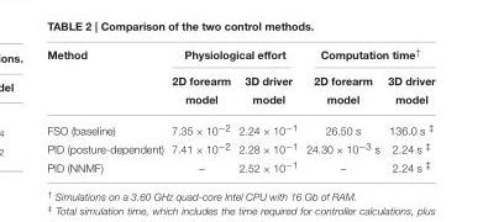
<table><thead><tr><td rowspan="2">Method</td><td colspan="2">Physiological effort</td><td colspan="2">Computation time<sup>†</sup></td></tr><tr><td>2D forearm model</td><td>3D driver model</td><td>2D forearm model</td><td>3D driver model</td></tr></thead><tbody><tr><td>FSO (baseline)</td><td>7.35 × 10<sup>−2</sup></td><td>2.24 × 10<sup>−1</sup></td><td>26.50 s</td><td>136.0 s <sup>‡</sup></td></tr><tr><td>PID (posture-dependent)</td><td>7.41 × 10<sup>−2</sup></td><td>2.28 × 10<sup>−1</sup></td><td>24.30 × 10<sup>−3</sup> s</td><td>2.24 s <sup>‡</sup></td></tr><tr><td>PID (NNMF)</td><td>–</td><td>2.52 × 10<sup>−1</sup></td><td>–</td><td>2.24 s <sup>‡</sup></td></tr></tbody></table>